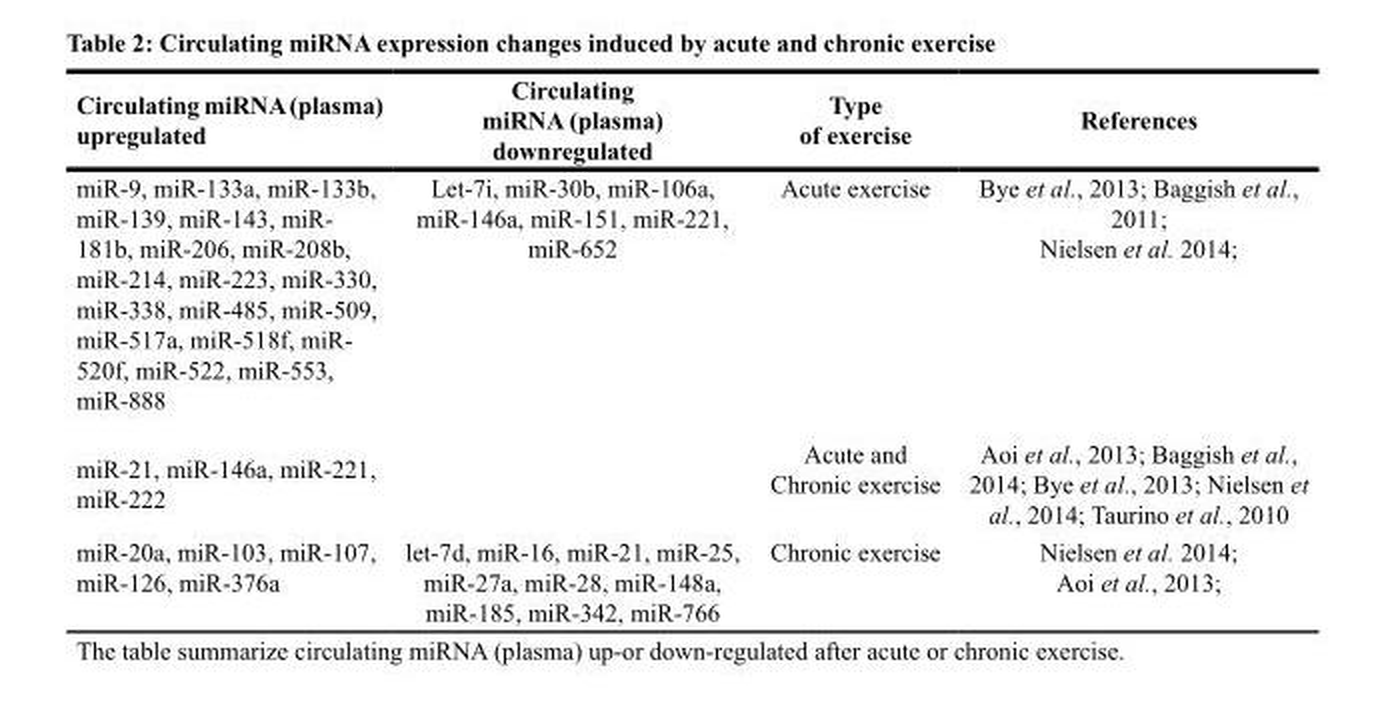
<table><thead><tr><td>Circulating miRNA (plasma) upregulated</td><td>Circulating miRNA (plasma) downregulated</td><td>Type of exercise</td><td>References</td></tr></thead><tbody><tr><td>miR-9, miR-133a, miR-133b, miR-139, miR-143, miR- 181b, miR-206, miR-208b, miR-214, miR-223, miR-330, miR-338, miR-485, miR-509, miR-517a, miR-518f, miR- 520f, miR-522, miR-553, miR-888</td><td>Let-7i, miR-30b, miR-106a, miR-146a, miR-151, miR-221, miR-652</td><td>Acute exercise</td><td>Bye et al., 2013; Baggish et al., 2011; Nielsen et al. 2014;</td></tr><tr><td>miR-21, miR-146a, miR-221, miR-222</td><td></td><td>Acute and Chronic exercise</td><td>Aoi et al., 2013; Baggish et al., 2014; Bye et al., 2013; Nielsen et al., 2014; Taurino et al., 2010</td></tr><tr><td>miR-20a, miR-103, miR-107, miR-126, miR-376a</td><td>let-7d, miR-16, miR-21, miR-25, miR-27a, miR-28, miR-148a, miR-185, miR-342, miR-766</td><td>Chronic exercise</td><td>Nielsen et al. 2014; Aoi et al., 2013;</td></tr></tbody></table>